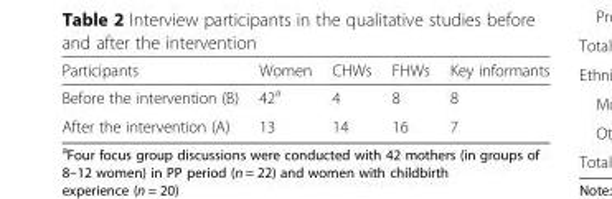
<table><thead><tr><td>Participants</td><td>Women</td><td>CHWs</td><td>FHWs</td><td>Key informants</td></tr></thead><tbody><tr><td>Before the intervention (B)</td><td>42<sup>a</sup></td><td>4</td><td>8</td><td>8</td></tr><tr><td>After the intervention (A)</td><td>13</td><td>14</td><td>16</td><td>7</td></tr></tbody></table>